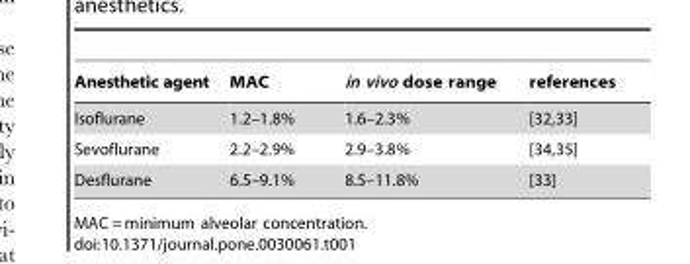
<table><thead><tr><td>Anesthetic agent</td><td>MAC</td><td>in vivo dose range</td><td>references</td></tr></thead><tbody><tr><td>Isoflurane</td><td>1.2–1.8%</td><td>1.6–2.3%</td><td>[32,33]</td></tr><tr><td>Sevoflurane</td><td>2.2–2.9%</td><td>2.9–3.8%</td><td>[34,35]</td></tr><tr><td>Desflurane</td><td>6.5–9.1%</td><td>8.5–11.8%</td><td>[33]</td></tr></tbody></table>